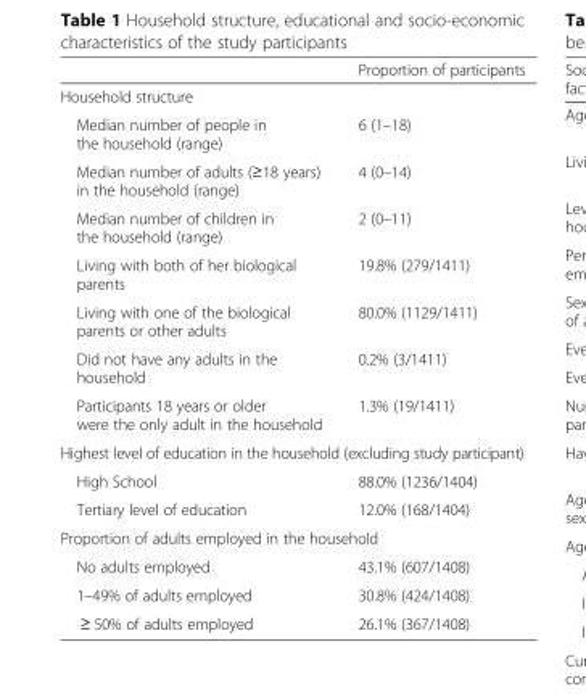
<table><thead><tr><td></td><td>Proportion of participants</td></tr></thead><tbody><tr><td colspan="2">Household structure</td></tr><tr><td>Median number of people in the household (range)</td><td>6 (1–18)</td></tr><tr><td>Median number of adults (≥18 years) in the household (range)</td><td>4 (0–14)</td></tr><tr><td>Median number of children in the household (range)</td><td>2 (0–11)</td></tr><tr><td>Living with both of her biological parents</td><td>19.8% (279/1411)</td></tr><tr><td>Living with one of the biological parents or other adults</td><td>80.0% (1129/1411)</td></tr><tr><td>Did not have any adults in the household</td><td>0.2% (3/1411)</td></tr><tr><td>Participants 18 years or older were the only adult in the household</td><td>1.3% (19/1411)</td></tr><tr><td colspan="2">Highest level of education in the household (excluding study participant)</td></tr><tr><td>High School</td><td>88.0% (1236/1404)</td></tr><tr><td>Tertiary level of education</td><td>12.0% (168/1404)</td></tr><tr><td colspan="2">Proportion of adults employed in the household</td></tr><tr><td>No adults employed</td><td>43.1% (607/1408)</td></tr><tr><td>1–49% of adults employed</td><td>30.8% (424/1408)</td></tr><tr><td>≥ 50% of adults employed</td><td>26.1% (367/1408)</td></tr></tbody></table>